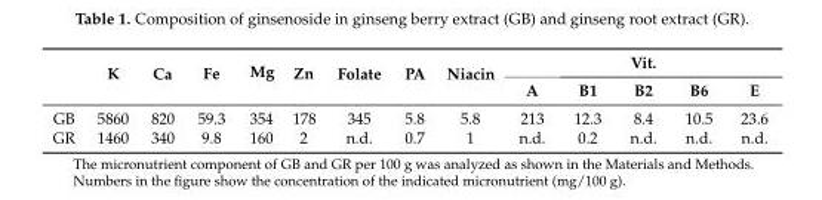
<table><thead><tr><td rowspan="2"></td><td rowspan="2">K</td><td rowspan="2">Ca</td><td rowspan="2">Fe</td><td rowspan="2">Mg</td><td rowspan="2">Zn</td><td rowspan="2">Folate</td><td rowspan="2">PA</td><td rowspan="2">Niacin</td><td colspan="5">Vit.</td></tr><tr><td>A</td><td>B1</td><td>B2</td><td>B6</td><td>E</td></tr></thead><tbody><tr><td>GB</td><td>5860</td><td>820</td><td>59.3</td><td>354</td><td>178</td><td>345</td><td>5.8</td><td>5.8</td><td>213</td><td>12.3</td><td>8.4</td><td>10.5</td><td>23.6</td></tr><tr><td>GR</td><td>1460</td><td>340</td><td>9.8</td><td>160</td><td>2</td><td>n.d.</td><td>0.7</td><td>1</td><td>n.d.</td><td>0.2</td><td>n.d.</td><td>n.d.</td><td>n.d.</td></tr></tbody></table>